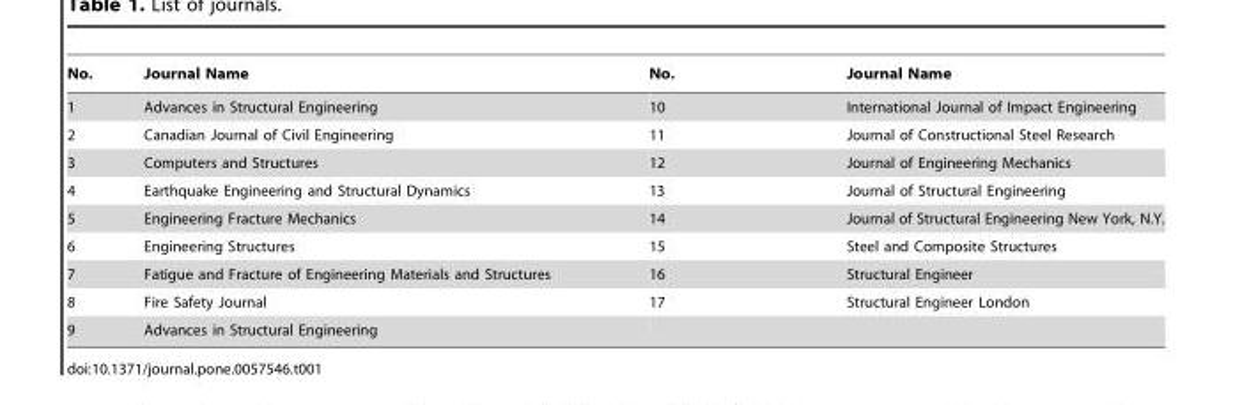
<table><thead><tr><td>No.</td><td>Journal Name</td><td>No.</td><td>Journal Name</td></tr></thead><tbody><tr><td>1</td><td>Advances in Structural Engineering</td><td>10</td><td>International Journal of Impact Engineering</td></tr><tr><td>2</td><td>Canadian Journal of Civil Engineering</td><td>11</td><td>Journal of Constructional Steel Research</td></tr><tr><td>3</td><td>Computers and Structures</td><td>12</td><td>Journal of Engineering Mechanics</td></tr><tr><td>4</td><td>Earthquake Engineering and Structural Dynamics</td><td>13</td><td>Journal of Structural Engineering</td></tr><tr><td>5</td><td>Engineering Fracture Mechanics</td><td>14</td><td>Journal of Structural Engineering New York, N.Y.</td></tr><tr><td>6</td><td>Engineering Structures</td><td>15</td><td>Steel and Composite Structures</td></tr><tr><td>7</td><td>Fatigue and Fracture of Engineering Materials and Structures</td><td>16</td><td>Structural Engineer</td></tr><tr><td>8</td><td>Fire Safety Journal</td><td>17</td><td>Structural Engineer London</td></tr><tr><td>9</td><td>Advances in Structural Engineering</td><td></td><td></td></tr></tbody></table>